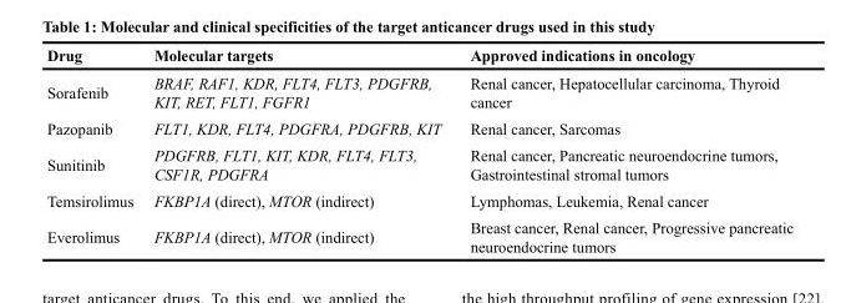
<table><thead><tr><td>Drug</td><td>Molecular targets</td><td>Approved indications in oncology</td></tr></thead><tbody><tr><td>Sorafenib</td><td>BRAF, RAF1, KDR, FLT4, FLT3, PDGFRB, KIT, RET, FLT1, FGFR1</td><td>Renal cancer, Hepatocellular carcinoma, Thyroid cancer</td></tr><tr><td>Pazopanib</td><td>FLT1, KDR, FLT4, PDGFRA, PDGFRB, KIT</td><td>Renal cancer, Sarcomas</td></tr><tr><td>Sunitinib</td><td>PDGFRB, FLT1, KIT, KDR, FLT4, FLT3, CSF1R, PDGFRA</td><td>Renal cancer, Pancreatic neuroendocrine tumors, Gastrointestinal stromal tumors</td></tr><tr><td>Temsirolimus</td><td>FKBP1A (direct), MTOR (indirect)</td><td>Lymphomas, Leukemia, Renal cancer</td></tr><tr><td>Everolimus</td><td>FKBP1A (direct), MTOR (indirect)</td><td>Breast cancer, Renal cancer, Progressive pancreatic neuroendocrine tumors</td></tr></tbody></table>